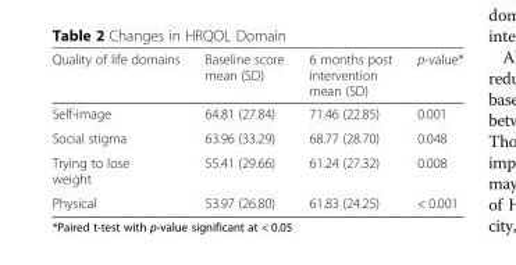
<table><thead><tr><td>Quality of life domains</td><td>Baseline score mean (SD)</td><td>6 months post intervention mean (SD)</td><td>p-value*</td></tr></thead><tbody><tr><td>Self-image</td><td>64.81 (27.84)</td><td>71.46 (22.85)</td><td>0.001</td></tr><tr><td>Social stigma</td><td>63.96 (33.29)</td><td>68.77 (28.70)</td><td>0.048</td></tr><tr><td>Trying to lose weight</td><td>55.41 (29.66)</td><td>61.24 (27.32)</td><td>0.008</td></tr><tr><td>Physical</td><td>53.97 (26.80)</td><td>61.83 (24.25)</td><td>&lt; 0.001</td></tr></tbody></table>